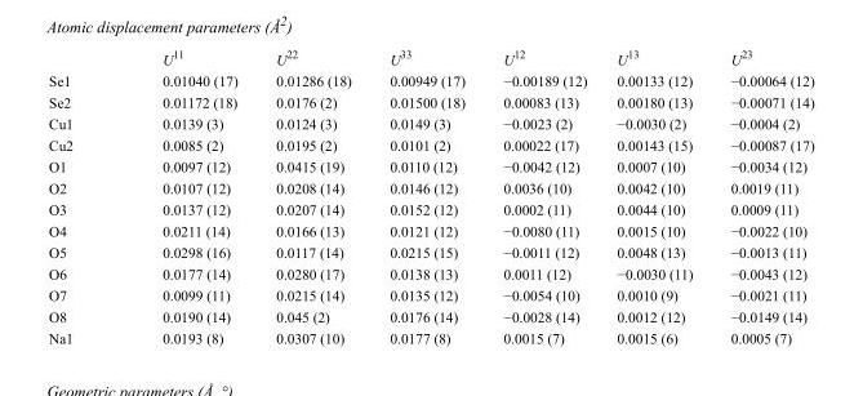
<table><thead><tr><td></td><td>U<sup>11</sup></td><td>U<sup>22</sup></td><td>U<sup>33</sup></td><td>U<sup>12</sup></td><td>U<sup>13</sup></td><td>U<sup>23</sup></td></tr></thead><tbody><tr><td>Se1</td><td>0.01040 (17)</td><td>0.01286 (18)</td><td>0.00949 (17)</td><td>−0.00189 (12)</td><td>0.00133 (12)</td><td>−0.00064 (12)</td></tr><tr><td>Se2</td><td>0.01172 (18)</td><td>0.0176 (2)</td><td>0.01500 (18)</td><td>0.00083 (13)</td><td>0.00180 (13)</td><td>−0.00071 (14)</td></tr><tr><td>Cu1</td><td>0.0139 (3)</td><td>0.0124 (3)</td><td>0.0149 (3)</td><td>−0.0023 (2)</td><td>−0.0030 (2)</td><td>−0.0004 (2)</td></tr><tr><td>Cu2</td><td>0.0085 (2)</td><td>0.0195 (2)</td><td>0.0101 (2)</td><td>0.00022 (17)</td><td>0.00143 (15)</td><td>−0.00087 (17)</td></tr><tr><td>O1</td><td>0.0097 (12)</td><td>0.0415 (19)</td><td>0.0110 (12)</td><td>−0.0042 (12)</td><td>0.0007 (10)</td><td>−0.0034 (12)</td></tr><tr><td>O2</td><td>0.0107 (12)</td><td>0.0208 (14)</td><td>0.0146 (12)</td><td>0.0036 (10)</td><td>0.0042 (10)</td><td>0.0019 (11)</td></tr><tr><td>O3</td><td>0.0137 (12)</td><td>0.0207 (14)</td><td>0.0152 (12)</td><td>0.0002 (11)</td><td>0.0044 (10)</td><td>0.0009 (11)</td></tr><tr><td>O4</td><td>0.0211 (14)</td><td>0.0166 (13)</td><td>0.0121 (12)</td><td>−0.0080 (11)</td><td>0.0015 (10)</td><td>−0.0022 (10)</td></tr><tr><td>O5</td><td>0.0298 (16)</td><td>0.0117 (14)</td><td>0.0215 (15)</td><td>−0.0011 (12)</td><td>0.0048 (13)</td><td>−0.0013 (11)</td></tr><tr><td>O6</td><td>0.0177 (14)</td><td>0.0280 (17)</td><td>0.0138 (13)</td><td>0.0011 (12)</td><td>−0.0030 (11)</td><td>−0.0043 (12)</td></tr><tr><td>O7</td><td>0.0099 (11)</td><td>0.0215 (14)</td><td>0.0135 (12)</td><td>−0.0054 (10)</td><td>0.0010 (9)</td><td>−0.0021 (11)</td></tr><tr><td>O8</td><td>0.0190 (14)</td><td>0.045 (2)</td><td>0.0176 (14)</td><td>−0.0028 (14)</td><td>0.0012 (12)</td><td>−0.0149 (14)</td></tr><tr><td>Na1</td><td>0.0193 (8)</td><td>0.0307 (10)</td><td>0.0177 (8)</td><td>0.0015 (7)</td><td>0.0015 (6)</td><td>0.0005 (7)</td></tr></tbody></table>